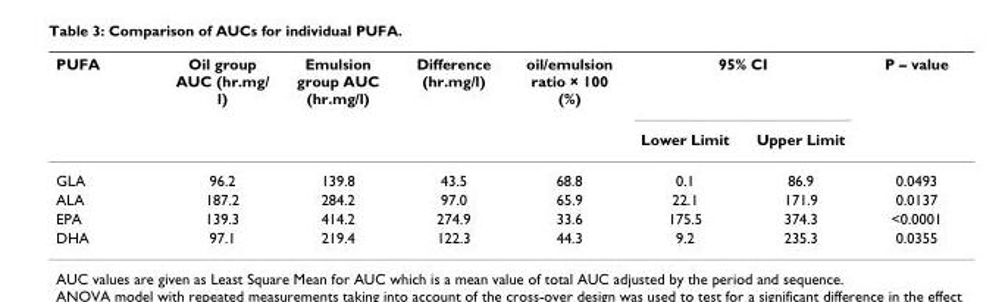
<table><thead><tr><td rowspan="2">PUFA</td><td rowspan="2">Oil group AUC (hr.mg/ l)</td><td rowspan="2">Emulsion group AUC (hr.mg/l)</td><td rowspan="2">Difference (hr.mg/l)</td><td rowspan="2">oil/emulsion ratio × 100 (%)</td><td colspan="2">95% CI</td><td rowspan="2">P – value</td></tr><tr><td>Lower Limit</td><td>Upper Limit</td></tr></thead><tbody><tr><td>GLA</td><td>96.2</td><td>139.8</td><td>43.5</td><td>68.8</td><td>0.1</td><td>86.9</td><td>0.0493</td></tr><tr><td>ALA</td><td>187.2</td><td>284.2</td><td>97.0</td><td>65.9</td><td>22.1</td><td>171.9</td><td>0.0137</td></tr><tr><td>EPA</td><td>139.3</td><td>414.2</td><td>274.9</td><td>33.6</td><td>175.5</td><td>374.3</td><td>&lt;0.0001</td></tr><tr><td>DHA</td><td>97.1</td><td>219.4</td><td>122.3</td><td>44.3</td><td>9.2</td><td>235.3</td><td>0.0355</td></tr></tbody></table>